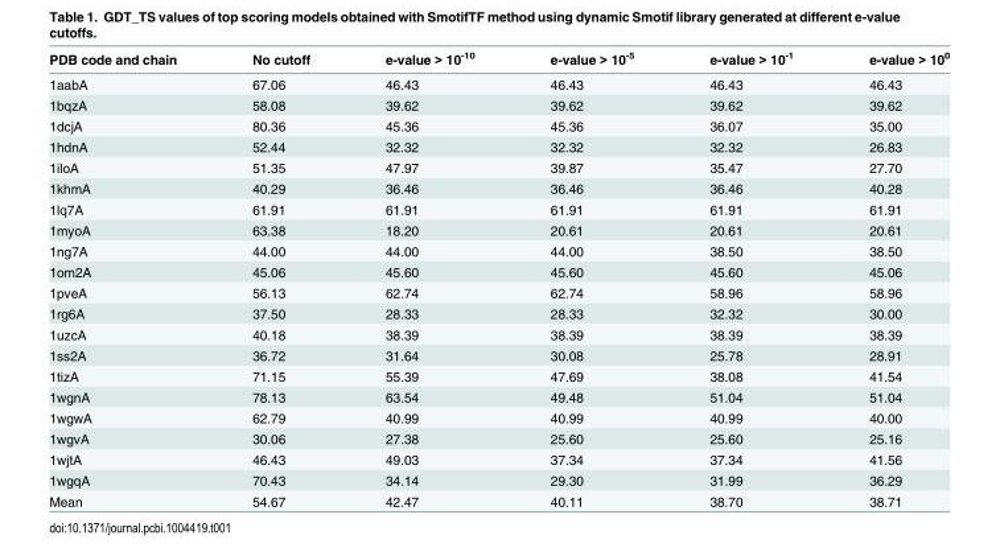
<table><thead><tr><td>PDB code and chain</td><td>No cutoff</td><td>e-value &gt; 10<sup>-10</sup></td><td>e-value &gt; 10<sup>-5</sup></td><td>e-value &gt; 10<sup>-1</sup></td><td>e-value &gt; 10<sup>0</sup></td></tr></thead><tbody><tr><td>1aabA</td><td>67.06</td><td>46.43</td><td>46.43</td><td>46.43</td><td>46.43</td></tr><tr><td>1bqzA</td><td>58.08</td><td>39.62</td><td>39.62</td><td>39.62</td><td>39.62</td></tr><tr><td>1dcjA</td><td>80.36</td><td>45.36</td><td>45.36</td><td>36.07</td><td>35.00</td></tr><tr><td>1hdnA</td><td>52.44</td><td>32.32</td><td>32.32</td><td>32.32</td><td>26.83</td></tr><tr><td>1iloA</td><td>51.35</td><td>47.97</td><td>39.87</td><td>35.47</td><td>27.70</td></tr><tr><td>1khmA</td><td>40.29</td><td>36.46</td><td>36.46</td><td>36.46</td><td>40.28</td></tr><tr><td>1lq7A</td><td>61.91</td><td>61.91</td><td>61.91</td><td>61.91</td><td>61.91</td></tr><tr><td>1myoA</td><td>63.38</td><td>18.20</td><td>20.61</td><td>20.61</td><td>20.61</td></tr><tr><td>1ng7A</td><td>44.00</td><td>44.00</td><td>44.00</td><td>38.50</td><td>38.50</td></tr><tr><td>1om2A</td><td>45.06</td><td>45.60</td><td>45.60</td><td>45.60</td><td>45.06</td></tr><tr><td>1pveA</td><td>56.13</td><td>62.74</td><td>62.74</td><td>58.96</td><td>58.96</td></tr><tr><td>1rg6A</td><td>37.50</td><td>28.33</td><td>28.33</td><td>32.32</td><td>30.00</td></tr><tr><td>1uzcA</td><td>40.18</td><td>38.39</td><td>38.39</td><td>38.39</td><td>38.39</td></tr><tr><td>1ss2A</td><td>36.72</td><td>31.64</td><td>30.08</td><td>25.78</td><td>28.91</td></tr><tr><td>1tizA</td><td>71.15</td><td>55.39</td><td>47.69</td><td>38.08</td><td>41.54</td></tr><tr><td>1wgnA</td><td>78.13</td><td>63.54</td><td>49.48</td><td>51.04</td><td>51.04</td></tr><tr><td>1wgwA</td><td>62.79</td><td>40.99</td><td>40.99</td><td>40.99</td><td>40.00</td></tr><tr><td>1wgvA</td><td>30.06</td><td>27.38</td><td>25.60</td><td>25.60</td><td>25.16</td></tr><tr><td>1wjtA</td><td>46.43</td><td>49.03</td><td>37.34</td><td>37.34</td><td>41.56</td></tr><tr><td>1wgqA</td><td>70.43</td><td>34.14</td><td>29.30</td><td>31.99</td><td>36.29</td></tr><tr><td>Mean</td><td>54.67</td><td>42.47</td><td>40.11</td><td>38.70</td><td>38.71</td></tr></tbody></table>